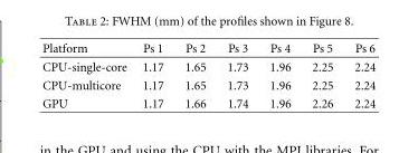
<table><thead><tr><td>Platform</td><td>Ps 1</td><td>Ps 2</td><td>Ps 3</td><td>Ps 4</td><td>Ps 5</td><td>Ps 6</td></tr></thead><tbody><tr><td>CPU-single-core</td><td>1.17</td><td>1.65</td><td>1.73</td><td>1.96</td><td>2.25</td><td>2.24</td></tr><tr><td>CPU-multicore</td><td>1.17</td><td>1.65</td><td>1.73</td><td>1.96</td><td>2.25</td><td>2.24</td></tr><tr><td>GPU</td><td>1.17</td><td>1.66</td><td>1.74</td><td>1.96</td><td>2.26</td><td>2.24</td></tr></tbody></table>